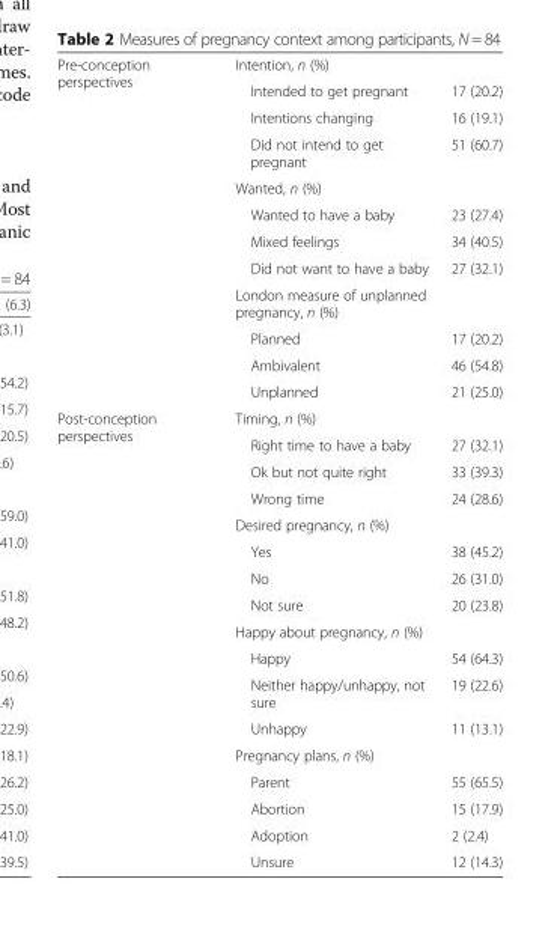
<table><tbody><tr><td rowspan="12">Pre-conception perspectives</td><td colspan="2">Intention, n (%)</td></tr><tr><td>Intended to get pregnant</td><td>17 (20.2)</td></tr><tr><td>Intentions changing</td><td>16 (19.1)</td></tr><tr><td>Did not intend to get pregnant</td><td>51 (60.7)</td></tr><tr><td colspan="2">Wanted, n (%)</td></tr><tr><td>Wanted to have a baby</td><td>23 (27.4)</td></tr><tr><td>Mixed feelings</td><td>34 (40.5)</td></tr><tr><td>Did not want to have a baby</td><td>27 (32.1)</td></tr><tr><td colspan="2">London measure of unplanned pregnancy, n (%)</td></tr><tr><td>Planned</td><td>17 (20.2)</td></tr><tr><td>Ambivalent</td><td>46 (54.8)</td></tr><tr><td>Unplanned</td><td>21 (25.0)</td></tr><tr><td rowspan="17">Post-conception perspectives</td><td colspan="2">Timing, n (%)</td></tr><tr><td>Right time to have a baby</td><td>27 (32.1)</td></tr><tr><td>Ok but not quite right</td><td>33 (39.3)</td></tr><tr><td>Wrong time</td><td>24 (28.6)</td></tr><tr><td colspan="2">Desired pregnancy, n (%)</td></tr><tr><td>Yes</td><td>38 (45.2)</td></tr><tr><td>No</td><td>26 (31.0)</td></tr><tr><td>Not sure</td><td>20 (23.8)</td></tr><tr><td colspan="2">Happy about pregnancy, n (%)</td></tr><tr><td>Happy</td><td>54 (64.3)</td></tr><tr><td>Neither happy/unhappy, not sure</td><td>19 (22.6)</td></tr><tr><td>Unhappy</td><td>11 (13.1)</td></tr><tr><td colspan="2">Pregnancy plans, n (%)</td></tr><tr><td>Parent</td><td>55 (65.5)</td></tr><tr><td>Abortion</td><td>15 (17.9)</td></tr><tr><td>Adoption</td><td>2 (2.4)</td></tr><tr><td>Unsure</td><td>12 (14.3)</td></tr></tbody></table>